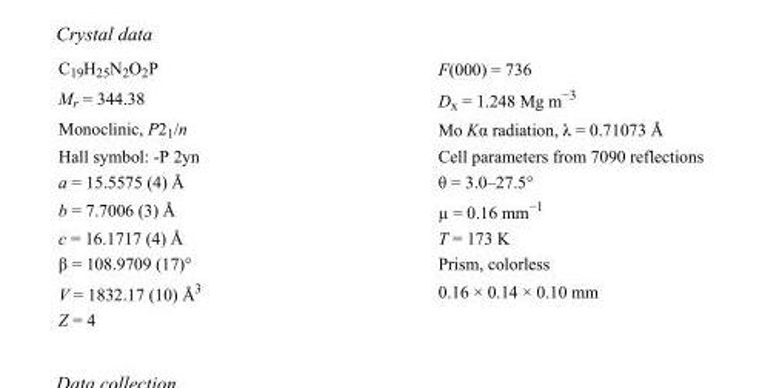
<table><tbody><tr><td>C<sub>19</sub>H<sub>25</sub>N<sub>2</sub>O<sub>2</sub>P</td><td>F(000) = 736</td></tr><tr><td>M<sub>r</sub> = 344.38</td><td>D<sub>x</sub> = 1.248 Mg m<sup>−3</sup></td></tr><tr><td>Monoclinic, P2<sub>1</sub>/n</td><td>Mo Kα radiation, λ = 0.71073 Å</td></tr><tr><td>Hall symbol: -P 2yn</td><td>Cell parameters from 7090 reflections</td></tr><tr><td>a = 15.5575 (4) Å</td><td>θ = 3.0–27.5°</td></tr><tr><td>b = 7.7006 (3) Å</td><td>µ = 0.16 mm<sup>−1</sup></td></tr><tr><td>c = 16.1717 (4) Å</td><td>T = 173 K</td></tr><tr><td>β = 108.9709 (17)°</td><td>Prism, colorless</td></tr><tr><td>V = 1832.17 (10) Å<sup>3</sup></td><td>0.16 × 0.14 × 0.10 mm</td></tr><tr><td>Z = 4</td><td></td></tr></tbody></table>